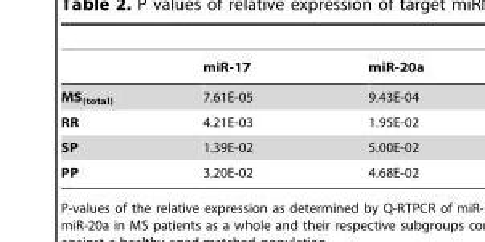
<table><thead><tr><td></td><td>miR-17</td><td>miR-20a</td></tr></thead><tbody><tr><td>MS<sub>(total)</sub></td><td>7.61E-05</td><td>9.43E-04</td></tr><tr><td>RR</td><td>4.21E-03</td><td>1.95E-02</td></tr><tr><td>SP</td><td>1.39E-02</td><td>5.00E-02</td></tr><tr><td>PP</td><td>3.20E-02</td><td>4.68E-02</td></tr></tbody></table>